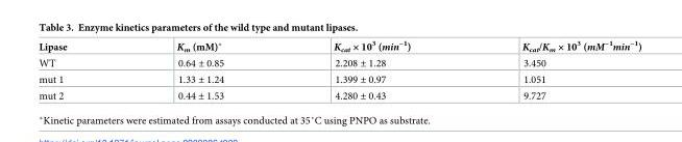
<table><thead><tr><td>Lipase</td><td>K<sub>m</sub> (mM)*</td><td>K<sub>cat</sub> × 10<sup>3</sup> (min<sup>−1</sup>)</td><td>K<sub>cat</sub>/K<sub>m</sub> × 10<sup>3</sup> (mM<sup>−1</sup>min<sup>−1</sup>)</td></tr></thead><tbody><tr><td>WT</td><td>0.64 ± 0.85</td><td>2.208 ± 1.28</td><td>3.450</td></tr><tr><td>mut 1</td><td>1.33 ± 1.24</td><td>1.399 ± 0.97</td><td>1.051</td></tr><tr><td>mut 2</td><td>0.44 ± 1.53</td><td>4.280 ± 0.43</td><td>9.727</td></tr></tbody></table>